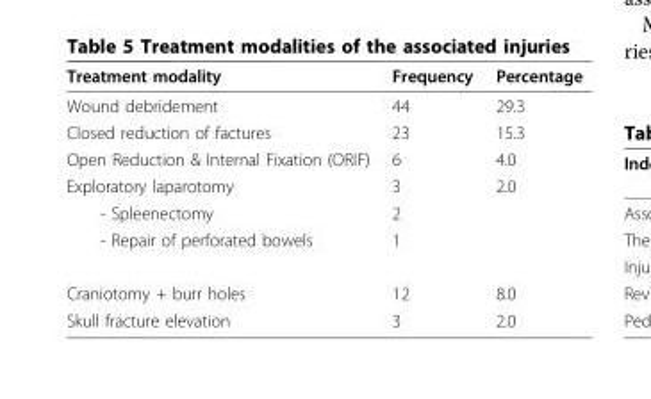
<table><thead><tr><td>Treatment modality</td><td>Frequency</td><td>Percentage</td></tr></thead><tbody><tr><td>Wound debridement</td><td>44</td><td>29.3</td></tr><tr><td>Closed reduction of factures</td><td>23</td><td>15.3</td></tr><tr><td>Open Reduction &amp; Internal Fixation (ORIF)</td><td>6</td><td>4.0</td></tr><tr><td>Exploratory laparotomy</td><td>3</td><td>2.0</td></tr><tr><td>- Spleenectomy</td><td>2</td><td></td></tr><tr><td>- Repair of perforated bowels</td><td>1</td><td></td></tr><tr><td>Craniotomy + burr holes</td><td>12</td><td>8.0</td></tr><tr><td>Skull fracture elevation</td><td>3</td><td>2.0</td></tr></tbody></table>